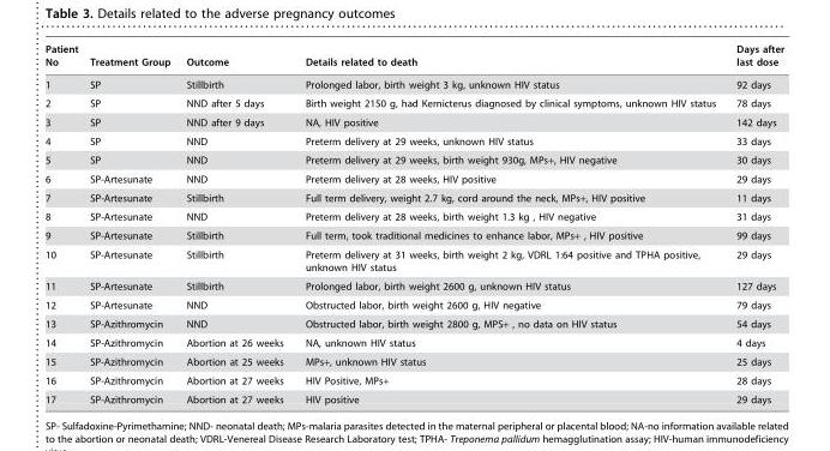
<table><thead><tr><td>Patient No</td><td>Treatment Group</td><td>Outcome</td><td>Details related to death</td><td>Days after last dose</td></tr></thead><tbody><tr><td>1</td><td>SP</td><td>Stillbirth</td><td>Prolonged labor, birth weight 3 kg, unknown HIV status</td><td>92 days</td></tr><tr><td>2</td><td>SP</td><td>NND after 5 days</td><td>Birth weight 2150 g, had Kernicterus diagnosed by clinical symptoms, unknown HIV status</td><td>78 days</td></tr><tr><td>3</td><td>SP</td><td>NND after 9 days</td><td>NA, HIV positive</td><td>142 days</td></tr><tr><td>4</td><td>SP</td><td>NND</td><td>Preterm delivery at 29 weeks, unknown HIV status</td><td>33 days</td></tr><tr><td>5</td><td>SP</td><td>NND</td><td>Preterm delivery at 29 weeks, birth weight 930g, MPs+, HIV negative</td><td>30 days</td></tr><tr><td>6</td><td>SP-Artesunate</td><td>NND</td><td>Preterm delivery at 28 weeks, HIV positive</td><td>29 days</td></tr><tr><td>7</td><td>SP-Artesunate</td><td>Stillbirth</td><td>Full term delivery, weight 2.7 kg, cord around the neck, MPs+, HIV positive</td><td>11 days</td></tr><tr><td>8</td><td>SP-Artesunate</td><td>NND</td><td>Preterm delivery at 28 weeks, birth weight 1.3 kg , HIV negative</td><td>31 days</td></tr><tr><td>9</td><td>SP-Artesunate</td><td>Stillbirth</td><td>Full term, took traditional medicines to enhance labor, MPs+ , HIV positive</td><td>99 days</td></tr><tr><td>10</td><td>SP-Artesunate</td><td>Stillbirth</td><td>Preterm delivery at 31 weeks, birth weight 2 kg, VDRL 1:64 positive and TPHA positive, unknown HIV status</td><td>29 days</td></tr><tr><td>11</td><td>SP-Artesunate</td><td>Stillbirth</td><td>Prolonged labor, birth weight 2600 g, unknown HIV status</td><td>127 days</td></tr><tr><td>12</td><td>SP-Artesunate</td><td>NND</td><td>Obstructed labor, birth weight 2600 g, HIV negative</td><td>79 days</td></tr><tr><td>13</td><td>SP-Azithromycin</td><td>NND</td><td>Obstructed labor, birth weight 2800 g, MPS+ , no data on HIV status</td><td>54 days</td></tr><tr><td>14</td><td>SP-Azithromycin</td><td>Abortion at 26 weeks</td><td>NA, unknown HIV status</td><td>4 days</td></tr><tr><td>15</td><td>SP-Azithromycin</td><td>Abortion at 25 weeks</td><td>MPs+, unknown HIV status</td><td>25 days</td></tr><tr><td>16</td><td>SP-Azithromycin</td><td>Abortion at 27 weeks</td><td>HIV Positive, MPs+</td><td>28 days</td></tr><tr><td>17</td><td>SP-Azithromycin</td><td>Abortion at 27 weeks</td><td>HIV positive</td><td>29 days</td></tr></tbody></table>